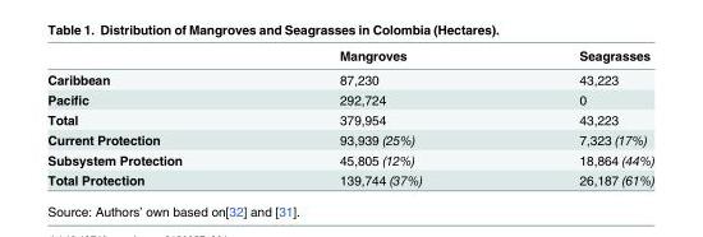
<table><thead><tr><td></td><td>Mangroves</td><td>Seagrasses</td></tr></thead><tbody><tr><td>Caribbean</td><td>87,230</td><td>43,223</td></tr><tr><td>Pacific</td><td>292,724</td><td>0</td></tr><tr><td>Total</td><td>379,954</td><td>43,223</td></tr><tr><td>Current Protection</td><td>93,939 (25%)</td><td>7,323 (17%)</td></tr><tr><td>Subsystem Protection</td><td>45,805 (12%)</td><td>18,864 (44%)</td></tr><tr><td>Total Protection</td><td>139,744 (37%)</td><td>26,187 (61%)</td></tr></tbody></table>